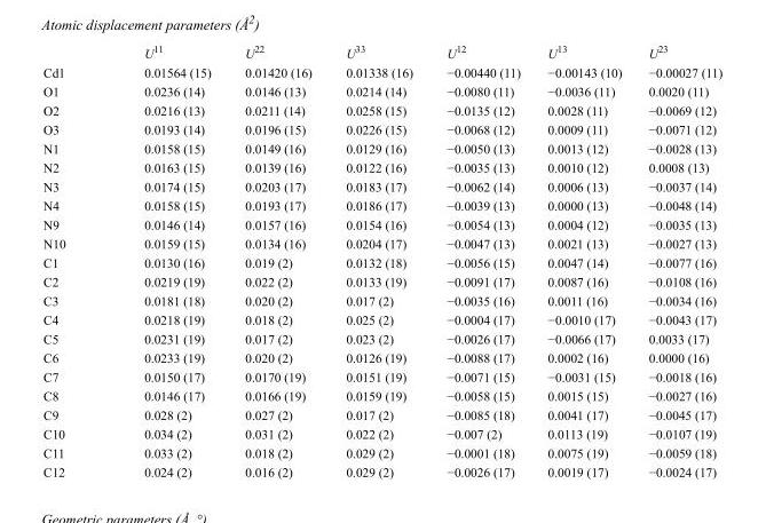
<table><thead><tr><td></td><td>U<sup>11</sup></td><td>U<sup>22</sup></td><td>U<sup>33</sup></td><td>U<sup>12</sup></td><td>U<sup>13</sup></td><td>U<sup>23</sup></td></tr></thead><tbody><tr><td>Cd1</td><td>0.01564 (15)</td><td>0.01420 (16)</td><td>0.01338 (16)</td><td>−0.00440 (11)</td><td>−0.00143 (10)</td><td>−0.00027 (11)</td></tr><tr><td>O1</td><td>0.0236 (14)</td><td>0.0146 (13)</td><td>0.0214 (14)</td><td>−0.0080 (11)</td><td>−0.0036 (11)</td><td>0.0020 (11)</td></tr><tr><td>O2</td><td>0.0216 (13)</td><td>0.0211 (14)</td><td>0.0258 (15)</td><td>−0.0135 (12)</td><td>0.0028 (11)</td><td>−0.0069 (12)</td></tr><tr><td>O3</td><td>0.0193 (14)</td><td>0.0196 (15)</td><td>0.0226 (15)</td><td>−0.0068 (12)</td><td>0.0009 (11)</td><td>−0.0071 (12)</td></tr><tr><td>N1</td><td>0.0158 (15)</td><td>0.0149 (16)</td><td>0.0129 (16)</td><td>−0.0050 (13)</td><td>0.0013 (12)</td><td>−0.0028 (13)</td></tr><tr><td>N2</td><td>0.0163 (15)</td><td>0.0139 (16)</td><td>0.0122 (16)</td><td>−0.0035 (13)</td><td>0.0010 (12)</td><td>0.0008 (13)</td></tr><tr><td>N3</td><td>0.0174 (15)</td><td>0.0203 (17)</td><td>0.0183 (17)</td><td>−0.0062 (14)</td><td>0.0006 (13)</td><td>−0.0037 (14)</td></tr><tr><td>N4</td><td>0.0158 (15)</td><td>0.0193 (17)</td><td>0.0186 (17)</td><td>−0.0039 (13)</td><td>0.0000 (13)</td><td>−0.0048 (14)</td></tr><tr><td>N9</td><td>0.0146 (14)</td><td>0.0157 (16)</td><td>0.0154 (16)</td><td>−0.0054 (13)</td><td>0.0004 (12)</td><td>−0.0035 (13)</td></tr><tr><td>N10</td><td>0.0159 (15)</td><td>0.0134 (16)</td><td>0.0204 (17)</td><td>−0.0047 (13)</td><td>0.0021 (13)</td><td>−0.0027 (13)</td></tr><tr><td>C1</td><td>0.0130 (16)</td><td>0.019 (2)</td><td>0.0132 (18)</td><td>−0.0056 (15)</td><td>0.0047 (14)</td><td>−0.0077 (16)</td></tr><tr><td>C2</td><td>0.0219 (19)</td><td>0.022 (2)</td><td>0.0133 (19)</td><td>−0.0091 (17)</td><td>0.0087 (16)</td><td>−0.0108 (16)</td></tr><tr><td>C3</td><td>0.0181 (18)</td><td>0.020 (2)</td><td>0.017 (2)</td><td>−0.0035 (16)</td><td>0.0011 (16)</td><td>−0.0034 (16)</td></tr><tr><td>C4</td><td>0.0218 (19)</td><td>0.018 (2)</td><td>0.025 (2)</td><td>−0.0004 (17)</td><td>−0.0010 (17)</td><td>−0.0043 (17)</td></tr><tr><td>C5</td><td>0.0231 (19)</td><td>0.017 (2)</td><td>0.023 (2)</td><td>−0.0026 (17)</td><td>−0.0066 (17)</td><td>0.0033 (17)</td></tr><tr><td>C6</td><td>0.0233 (19)</td><td>0.020 (2)</td><td>0.0126 (19)</td><td>−0.0088 (17)</td><td>0.0002 (16)</td><td>0.0000 (16)</td></tr><tr><td>C7</td><td>0.0150 (17)</td><td>0.0170 (19)</td><td>0.0151 (19)</td><td>−0.0071 (15)</td><td>−0.0031 (15)</td><td>−0.0018 (16)</td></tr><tr><td>C8</td><td>0.0146 (17)</td><td>0.0166 (19)</td><td>0.0159 (19)</td><td>−0.0058 (15)</td><td>0.0015 (15)</td><td>−0.0027 (16)</td></tr><tr><td>C9</td><td>0.028 (2)</td><td>0.027 (2)</td><td>0.017 (2)</td><td>−0.0085 (18)</td><td>0.0041 (17)</td><td>−0.0045 (17)</td></tr><tr><td>C10</td><td>0.034 (2)</td><td>0.031 (2)</td><td>0.022 (2)</td><td>−0.007 (2)</td><td>0.0113 (19)</td><td>−0.0107 (19)</td></tr><tr><td>C11</td><td>0.033 (2)</td><td>0.018 (2)</td><td>0.029 (2)</td><td>−0.0001 (18)</td><td>0.0075 (19)</td><td>−0.0059 (18)</td></tr><tr><td>C12</td><td>0.024 (2)</td><td>0.016 (2)</td><td>0.029 (2)</td><td>−0.0026 (17)</td><td>0.0019 (17)</td><td>−0.0024 (17)</td></tr></tbody></table>